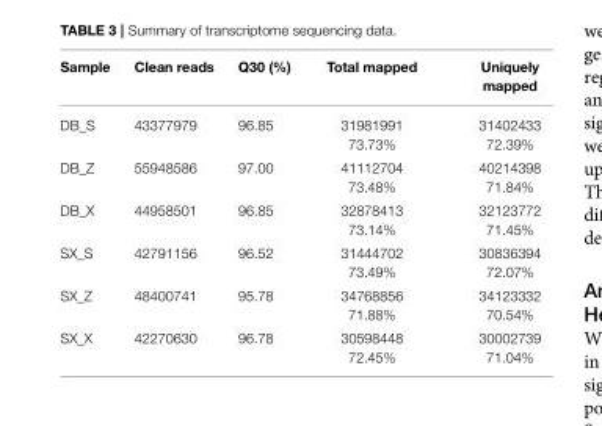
<table><thead><tr><td>Sample</td><td>Clean reads</td><td>Q30 (%)</td><td>Total mapped</td><td>Uniquely mapped</td></tr></thead><tbody><tr><td>DB_S</td><td>43377979</td><td>96.85</td><td>31981991 73.73%</td><td>31402433 72.39%</td></tr><tr><td>DB_Z</td><td>55948586</td><td>97.00</td><td>41112704 73.48%</td><td>40214398 71.84%</td></tr><tr><td>DB_X</td><td>44958501</td><td>96.85</td><td>32878413 73.14%</td><td>32123772 71.45%</td></tr><tr><td>SX_S</td><td>42791156</td><td>96.52</td><td>31444702 73.49%</td><td>30836394 72.07%</td></tr><tr><td>SX_Z</td><td>48400741</td><td>95.78</td><td>34768856 71.88%</td><td>34123332 70.54%</td></tr><tr><td>SX_X</td><td>42270630</td><td>96.78</td><td>30598448 72.45%</td><td>30002739 71.04%</td></tr></tbody></table>